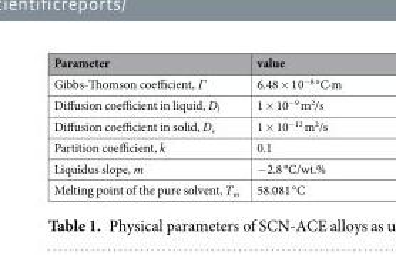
<table><thead><tr><td>Parameter</td><td>value</td></tr></thead><tbody><tr><td>Gibbs-Thomson coefficient, Γ</td><td>6.48 × 10<sup>−8</sup> °C·m</td></tr><tr><td>Diffusion coefficient in liquid, D<sub>l</sub></td><td>1 × 10<sup>−9</sup> m<sup>2</sup>/s</td></tr><tr><td>Diffusion coefficient in solid, D<sub>s</sub></td><td>1 × 10<sup>−12</sup> m<sup>2</sup>/s</td></tr><tr><td>Partition coefficient, k</td><td>0.1</td></tr><tr><td>Liquidus slope, m</td><td>−2.8 °C/wt.%</td></tr><tr><td>Melting point of the pure solvent, T<sub>m</sub></td><td>58.081 °C</td></tr></tbody></table>